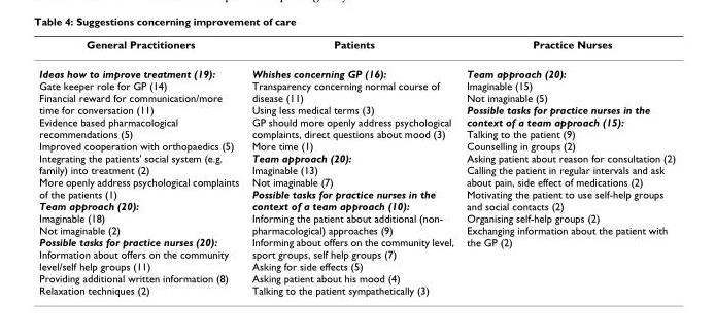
<table><thead><tr><td>General Practitioners</td><td>Patients</td><td>Practice Nurses</td></tr></thead><tbody><tr><td>Ideas how to improve treatment (19): Gate keeper role for GP (14) Financial reward for communication/more time for conversation (11) Evidence based pharmacological recommendations (5) Improved cooperation with orthopaedics (5) Integrating the patients&#x27; social system (e.g. family) into treatment (2) More openly address psychological complaints of the patients (1) Team approach (20): Imaginable (18) Not imaginable (2) Possible tasks for practice nurses (20): Information about offers on the community level/self help groups (11) Providing additional written information (8) Relaxation techniques (2)</td><td>Whishes concerning GP (16): Transparency concerning normal course of disease (11) Using less medical terms (3) GP should more openly address psychological complaints, direct questions about mood (3) More time (1) Team approach (20): Imaginable (13) Not imaginable (7) Possible tasks for practice nurses in the context of a team approach (10): Informing the patient about additional (non- pharmacological) approaches (9) Informing about offers on the community level, sport groups, self help groups (7) Asking for side effects (5) Asking patient about his mood (4) Talking to the patient sympathetically (3)</td><td>Team approach (20): Imaginable (15) Not imaginable (5) Possible tasks for practice nurses in the context of a team approach (15): Talking to the patient (9) Counselling in groups (2) Asking patient about reason for consultation (2) Calling the patient in regular intervals and ask about pain, side effect of medications (2) Motivating the patient to use self-help groups and social contacts (2) Organising self-help groups (2) Exchanging information about the patient with the GP (2)</td></tr></tbody></table>